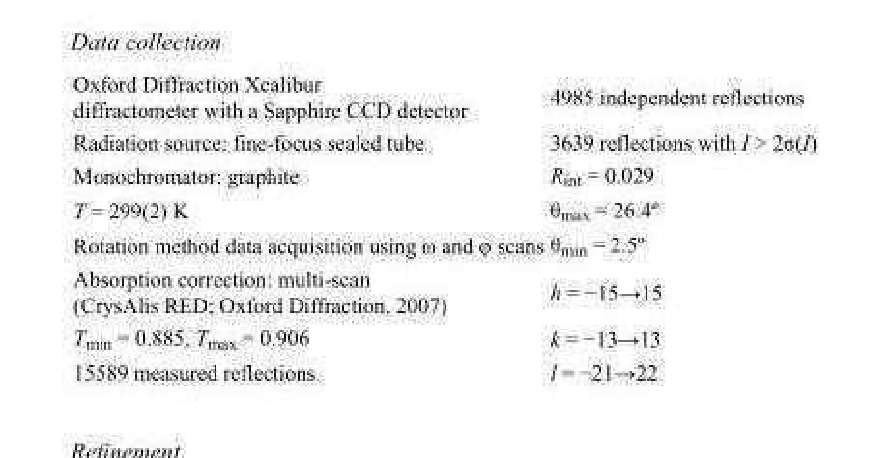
<table><tbody><tr><td>Oxford Diffraction Xcalibur diffractometer with a Sapphire CCD detector</td><td>4985 independent reflections</td></tr><tr><td>Radiation source: fine-focus sealed tube</td><td>3639 reflections with I &gt; 2σ(I)</td></tr><tr><td>Monochromator: graphite</td><td>R<sub>int</sub> = 0.029</td></tr><tr><td>T = 299(2) K</td><td>θ<sub>max</sub> = 26.4º</td></tr><tr><td>Rotation method data acquisition using ω and φ scans</td><td>θ<sub>min</sub> = 2.5º</td></tr><tr><td>Absorption correction: multi-scan (CrysAlis RED; Oxford Diffraction, 2007)</td><td>h = −15→15</td></tr><tr><td>T<sub>min</sub> = 0.885, T<sub>max</sub> = 0.906</td><td>k = −13→13</td></tr><tr><td>15589 measured reflections</td><td>l = −21→22</td></tr></tbody></table>